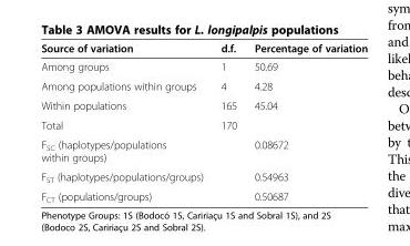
<table><thead><tr><td>Source of variation</td><td>d.f.</td><td>Percentage of variation</td></tr></thead><tbody><tr><td>Among groups</td><td>1</td><td>50.69</td></tr><tr><td>Among populations within groups</td><td>4</td><td>4.28</td></tr><tr><td>Within populations</td><td>165</td><td>45.04</td></tr><tr><td>Total</td><td>170</td><td></td></tr><tr><td>F<sub>SC</sub> (haplotypes/populations within groups)</td><td></td><td>0.08672</td></tr><tr><td>F<sub>ST</sub> (haplotypes/populations/groups)</td><td></td><td>0.54963</td></tr><tr><td>F<sub>CT</sub> (populations/groups)</td><td></td><td>0.50687</td></tr></tbody></table>